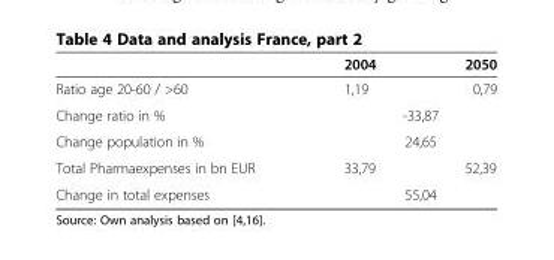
<table><thead><tr><td></td><td>2004</td><td>2050</td></tr></thead><tbody><tr><td>Ratio age 20-60 / &gt;60</td><td>1,19</td><td>0,79</td></tr><tr><td>Change ratio in %</td><td colspan="2">-33,87</td></tr><tr><td>Change population in %</td><td colspan="2">24,65</td></tr><tr><td>Total Pharmaexpenses in bn EUR</td><td>33,79</td><td>52,39</td></tr><tr><td>Change in total expenses</td><td colspan="2">55,04</td></tr></tbody></table>